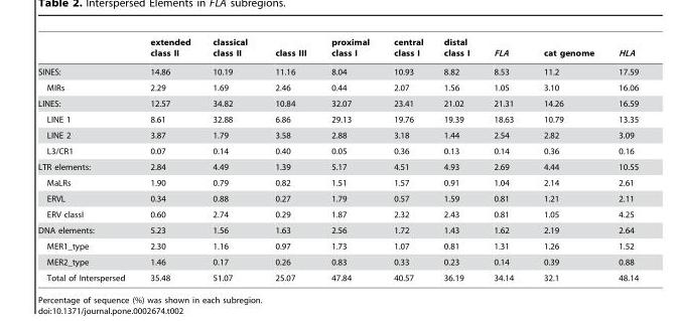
<table><thead><tr><td></td><td>extended class II</td><td>classical class II</td><td>class III</td><td>proximal class I</td><td>central class I</td><td>distal class I</td><td>FLA</td><td>cat genome</td><td>HLA</td></tr></thead><tbody><tr><td>SINES:</td><td>14.86</td><td>10.19</td><td>11.16</td><td>8.04</td><td>10.93</td><td>8.82</td><td>8.53</td><td>11.2</td><td>17.59</td></tr><tr><td>MIRs</td><td>2.29</td><td>1.69</td><td>2.46</td><td>0.44</td><td>2.07</td><td>1.56</td><td>1.05</td><td>3.10</td><td>16.06</td></tr><tr><td>LINES:</td><td>12.57</td><td>34.82</td><td>10.84</td><td>32.07</td><td>23.41</td><td>21.02</td><td>21.31</td><td>14.26</td><td>16.59</td></tr><tr><td>LINE 1</td><td>8.61</td><td>32.88</td><td>6.86</td><td>29.13</td><td>19.76</td><td>19.39</td><td>18.63</td><td>10.79</td><td>13.35</td></tr><tr><td>LINE 2</td><td>3.87</td><td>1.79</td><td>3.58</td><td>2.88</td><td>3.18</td><td>1.44</td><td>2.54</td><td>2.82</td><td>3.09</td></tr><tr><td>L3/CR1</td><td>0.07</td><td>0.14</td><td>0.40</td><td>0.05</td><td>0.36</td><td>0.13</td><td>0.14</td><td>0.36</td><td>0.16</td></tr><tr><td>LTR elements:</td><td>2.84</td><td>4.49</td><td>1.39</td><td>5.17</td><td>4.51</td><td>4.93</td><td>2.69</td><td>4.44</td><td>10.55</td></tr><tr><td>MaLRs</td><td>1.90</td><td>0.79</td><td>0.82</td><td>1.51</td><td>1.57</td><td>0.91</td><td>1.04</td><td>2.14</td><td>2.61</td></tr><tr><td>ERVL</td><td>0.34</td><td>0.88</td><td>0.27</td><td>1.79</td><td>0.57</td><td>1.59</td><td>0.81</td><td>1.21</td><td>2.11</td></tr><tr><td>ERV classI</td><td>0.60</td><td>2.74</td><td>0.29</td><td>1.87</td><td>2.32</td><td>2.43</td><td>0.81</td><td>1.05</td><td>4.25</td></tr><tr><td>DNA elements:</td><td>5.23</td><td>1.56</td><td>1.63</td><td>2.56</td><td>1.72</td><td>1.43</td><td>1.62</td><td>2.19</td><td>2.64</td></tr><tr><td>MER1_type</td><td>2.30</td><td>1.16</td><td>0.97</td><td>1.73</td><td>1.07</td><td>0.81</td><td>1.31</td><td>1.26</td><td>1.52</td></tr><tr><td>MER2_type</td><td>1.46</td><td>0.17</td><td>0.26</td><td>0.83</td><td>0.33</td><td>0.23</td><td>0.14</td><td>0.39</td><td>0.88</td></tr><tr><td>Total of Interspersed</td><td>35.48</td><td>51.07</td><td>25.07</td><td>47.84</td><td>40.57</td><td>36.19</td><td>34.14</td><td>32.1</td><td>48.14</td></tr></tbody></table>